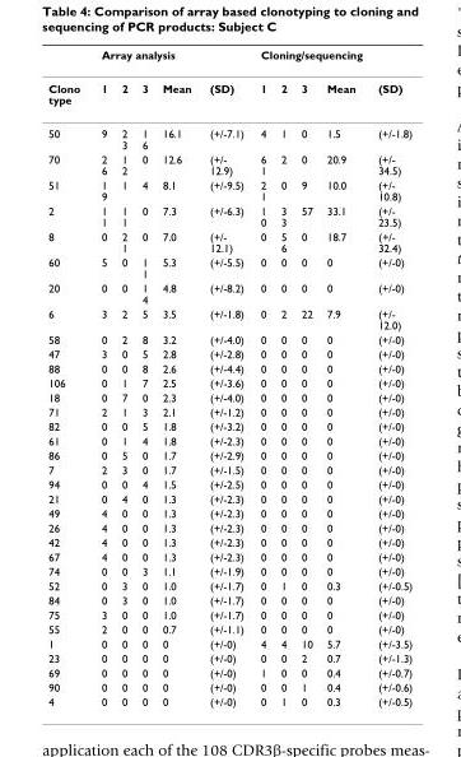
<table><thead><tr><td rowspan="2">Clono type</td><td colspan="5">Array analysis</td><td colspan="5">Cloning/sequencing</td></tr><tr><td>1</td><td>2</td><td>3</td><td>Mean</td><td>(SD)</td><td>1</td><td>2</td><td>3</td><td>Mean</td><td>(SD)</td></tr></thead><tbody><tr><td>50</td><td>9</td><td>2 3</td><td>1 6</td><td>16.1</td><td>(+/-7.1)</td><td>4</td><td>1</td><td>0</td><td>1.5</td><td>(+/-1.8)</td></tr><tr><td>70</td><td>2 6</td><td>1 2</td><td>0</td><td>12.6</td><td>(+/- 12.9)</td><td>6 1</td><td>2</td><td>0</td><td>20.9</td><td>(+/- 34.5)</td></tr><tr><td>51</td><td>1 9</td><td>1</td><td>4</td><td>8.1</td><td>(+/-9.5)</td><td>2 1</td><td>0</td><td>9</td><td>10.0</td><td>(+/- 10.8)</td></tr><tr><td>2</td><td>1 1</td><td>1 1</td><td>0</td><td>7.3</td><td>(+/-6.3)</td><td>1 0</td><td>3 3</td><td>57</td><td>33.1</td><td>(+/- 23.5)</td></tr><tr><td>8</td><td>0</td><td>2 1</td><td>0</td><td>7.0</td><td>(+/- 12.1)</td><td>0</td><td>5 6</td><td>0</td><td>18.7</td><td>(+/- 32.4)</td></tr><tr><td>60</td><td>5</td><td>0</td><td>1 1</td><td>5.3</td><td>(+/-5.5)</td><td>0</td><td>0</td><td>0</td><td>0</td><td>(+/-0)</td></tr><tr><td>20</td><td>0</td><td>0</td><td>1 4</td><td>4.8</td><td>(+/-8.2)</td><td>0</td><td>0</td><td>0</td><td>0</td><td>(+/-0)</td></tr><tr><td>6</td><td>3</td><td>2</td><td>5</td><td>3.5</td><td>(+/-1.8)</td><td>0</td><td>2</td><td>22</td><td>7.9</td><td>(+/- 12.0)</td></tr><tr><td>58</td><td>0</td><td>2</td><td>8</td><td>3.2</td><td>(+/-4.0)</td><td>0</td><td>0</td><td>0</td><td>0</td><td>(+/-0)</td></tr><tr><td>47</td><td>3</td><td>0</td><td>5</td><td>2.8</td><td>(+/-2.8)</td><td>0</td><td>0</td><td>0</td><td>0</td><td>(+/-0)</td></tr><tr><td>88</td><td>0</td><td>0</td><td>8</td><td>2.6</td><td>(+/-4.4)</td><td>0</td><td>0</td><td>0</td><td>0</td><td>(+/-0)</td></tr><tr><td>106</td><td>0</td><td>1</td><td>7</td><td>2.5</td><td>(+/-3.6)</td><td>0</td><td>0</td><td>0</td><td>0</td><td>(+/-0)</td></tr><tr><td>18</td><td>0</td><td>7</td><td>0</td><td>2.3</td><td>(+/-4.0)</td><td>0</td><td>0</td><td>0</td><td>0</td><td>(+/-0)</td></tr><tr><td>71</td><td>2</td><td>1</td><td>3</td><td>2.1</td><td>(+/-1.2)</td><td>0</td><td>0</td><td>0</td><td>0</td><td>(+/-0)</td></tr><tr><td>82</td><td>0</td><td>0</td><td>5</td><td>1.8</td><td>(+/-3.2)</td><td>0</td><td>0</td><td>0</td><td>0</td><td>(+/-0)</td></tr><tr><td>61</td><td>0</td><td>1</td><td>4</td><td>1.8</td><td>(+/-2.3)</td><td>0</td><td>0</td><td>0</td><td>0</td><td>(+/-0)</td></tr><tr><td>86</td><td>0</td><td>5</td><td>0</td><td>1.7</td><td>(+/-2.9)</td><td>0</td><td>0</td><td>0</td><td>0</td><td>(+/-0)</td></tr><tr><td>7</td><td>2</td><td>3</td><td>0</td><td>1.7</td><td>(+/-1.5)</td><td>0</td><td>0</td><td>0</td><td>0</td><td>(+/-0)</td></tr><tr><td>94</td><td>0</td><td>0</td><td>4</td><td>1.5</td><td>(+/-2.5)</td><td>0</td><td>0</td><td>0</td><td>0</td><td>(+/-0)</td></tr><tr><td>21</td><td>0</td><td>4</td><td>0</td><td>1.3</td><td>(+/-2.3)</td><td>0</td><td>0</td><td>0</td><td>0</td><td>(+/-0)</td></tr><tr><td>49</td><td>4</td><td>0</td><td>0</td><td>1.3</td><td>(+/-2.3)</td><td>0</td><td>0</td><td>0</td><td>0</td><td>(+/-0)</td></tr><tr><td>26</td><td>4</td><td>0</td><td>0</td><td>1.3</td><td>(+/-2.3)</td><td>0</td><td>0</td><td>0</td><td>0</td><td>(+/-0)</td></tr><tr><td>42</td><td>4</td><td>0</td><td>0</td><td>1.3</td><td>(+/-2.3)</td><td>0</td><td>0</td><td>0</td><td>0</td><td>(+/-0)</td></tr><tr><td>67</td><td>4</td><td>0</td><td>0</td><td>1.3</td><td>(+/-2.3)</td><td>0</td><td>0</td><td>0</td><td>0</td><td>(+/-0)</td></tr><tr><td>74</td><td>0</td><td>0</td><td>3</td><td>1.1</td><td>(+/-1.9)</td><td>0</td><td>0</td><td>0</td><td>0</td><td>(+/-0)</td></tr><tr><td>52</td><td>0</td><td>3</td><td>0</td><td>1.0</td><td>(+/-1.7)</td><td>0</td><td>1</td><td>0</td><td>0.3</td><td>(+/-0.5)</td></tr><tr><td>84</td><td>0</td><td>3</td><td>0</td><td>1.0</td><td>(+/-1.7)</td><td>0</td><td>0</td><td>0</td><td>0</td><td>(+/-0)</td></tr><tr><td>75</td><td>3</td><td>0</td><td>0</td><td>1.0</td><td>(+/-1.7)</td><td>0</td><td>0</td><td>0</td><td>0</td><td>(+/-0)</td></tr><tr><td>55</td><td>2</td><td>0</td><td>0</td><td>0.7</td><td>(+/-1.1)</td><td>0</td><td>0</td><td>0</td><td>0</td><td>(+/-0)</td></tr><tr><td>1</td><td>0</td><td>0</td><td>0</td><td>0</td><td>(+/-0)</td><td>4</td><td>4</td><td>10</td><td>5.7</td><td>(+/-3.5)</td></tr><tr><td>23</td><td>0</td><td>0</td><td>0</td><td>0</td><td>(+/-0)</td><td>0</td><td>0</td><td>2</td><td>0.7</td><td>(+/-1.3)</td></tr><tr><td>69</td><td>0</td><td>0</td><td>0</td><td>0</td><td>(+/-0)</td><td>1</td><td>0</td><td>0</td><td>0.4</td><td>(+/-0.7)</td></tr><tr><td>90</td><td>0</td><td>0</td><td>0</td><td>0</td><td>(+/-0)</td><td>0</td><td>0</td><td>1</td><td>0.4</td><td>(+/-0.6)</td></tr><tr><td>4</td><td>0</td><td>0</td><td>0</td><td>0</td><td>(+/-0)</td><td>0</td><td>1</td><td>0</td><td>0.3</td><td>(+/-0.5)</td></tr></tbody></table>